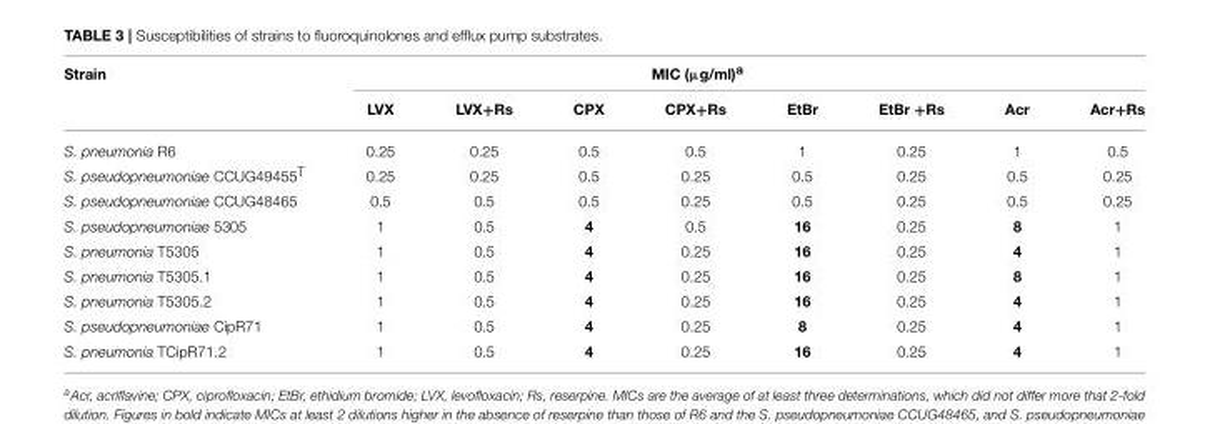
<table><thead><tr><td rowspan="2">Strain</td><td colspan="8">MIC (µg/ml)<sup>a</sup></td></tr><tr><td>LVX</td><td>LVX+Rs</td><td>CPX</td><td>CPX+Rs</td><td>EtBr</td><td>EtBr +Rs</td><td>Acr</td><td>Acr+Rs</td></tr></thead><tbody><tr><td>S. pneumonia R6</td><td>0.25</td><td>0.25</td><td>0.5</td><td>0.5</td><td>1</td><td>0.25</td><td>1</td><td>0.5</td></tr><tr><td>S. pseudopneumoniae CCUG49455<sup>T</sup></td><td>0.25</td><td>0.25</td><td>0.5</td><td>0.25</td><td>0.5</td><td>0.25</td><td>0.5</td><td>0.25</td></tr><tr><td>S. pseudopneumoniae CCUG48465</td><td>0.5</td><td>0.5</td><td>0.5</td><td>0.25</td><td>0.5</td><td>0.25</td><td>0.5</td><td>0.25</td></tr><tr><td>S. pseudopneumoniae 5305</td><td>1</td><td>0.5</td><td>4</td><td>0.5</td><td>16</td><td>0.25</td><td>8</td><td>1</td></tr><tr><td>S. pneumonia T5305</td><td>1</td><td>0.5</td><td>4</td><td>0.25</td><td>16</td><td>0.25</td><td>4</td><td>1</td></tr><tr><td>S. pneumonia T5305.1</td><td>1</td><td>0.5</td><td>4</td><td>0.25</td><td>16</td><td>0.25</td><td>8</td><td>1</td></tr><tr><td>S. pneumonia T5305.2</td><td>1</td><td>0.5</td><td>4</td><td>0.25</td><td>16</td><td>0.25</td><td>4</td><td>1</td></tr><tr><td>S. pseudopneumoniae CipR71</td><td>1</td><td>0.5</td><td>4</td><td>0.25</td><td>8</td><td>0.25</td><td>4</td><td>1</td></tr><tr><td>S. pneumonia TCipR71.2</td><td>1</td><td>0.5</td><td>4</td><td>0.25</td><td>16</td><td>0.25</td><td>4</td><td>1</td></tr></tbody></table>